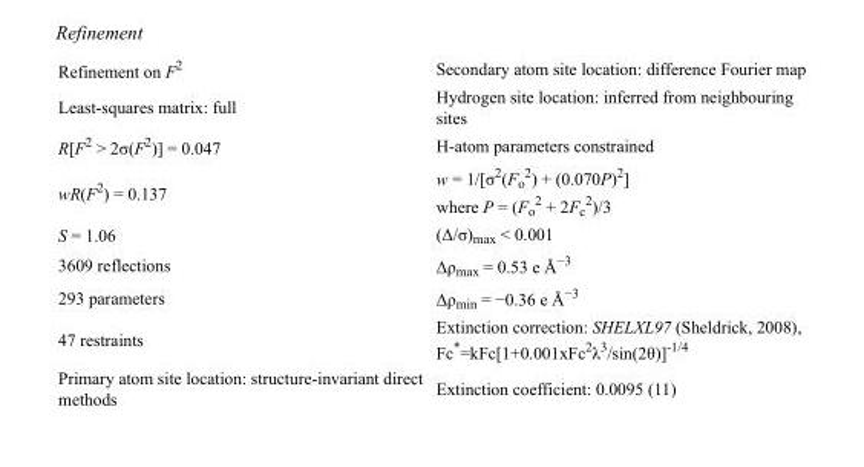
<table><tbody><tr><td>Refinement on F<sup>2</sup></td><td>Secondary atom site location: difference Fourier map</td></tr><tr><td>Least-squares matrix: full</td><td>Hydrogen site location: inferred from neighbouring sites</td></tr><tr><td>R[F<sup>2</sup> &gt; 2σ(F<sup>2</sup>)] = 0.047</td><td>H-atom parameters constrained</td></tr><tr><td>wR(F<sup>2</sup>) = 0.137</td><td>w = 1/[σ<sup>2</sup>(F<sub>o</sub> <sup>2</sup>) + (0.070P)<sup>2</sup>] where P = (F<sub>o</sub> <sup>2</sup> + 2F<sub>c</sub> <sup>2</sup>)/3</td></tr><tr><td>S = 1.06</td><td>(Δ/σ)<sub>max</sub> &lt; 0.001</td></tr><tr><td>3609 reflections</td><td>Δρ<sub>max</sub> = 0.53 e Å<sup>−3</sup></td></tr><tr><td>293 parameters</td><td>Δρ<sub>min</sub> = −0.36 e Å<sup>−3</sup></td></tr><tr><td>47 restraints</td><td>Extinction correction: SHELXL97 (Sheldrick, 2008), Fc*=kFc[1+0.001xFc<sup>2</sup>λ<sup>3</sup>/sin(2θ)]<sup>-1/4</sup></td></tr><tr><td>Primary atom site location: structure-invariant direct methods</td><td>Extinction coefficient: 0.0095 (11)</td></tr></tbody></table>